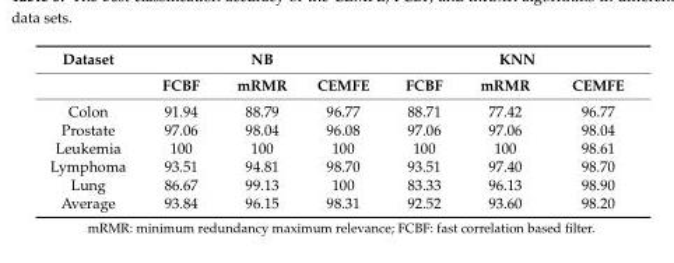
<table><thead><tr><td rowspan="2">Dataset</td><td colspan="3">NB</td><td colspan="3">KNN</td></tr><tr><td>FCBF</td><td>mRMR</td><td>CEMFE</td><td>FCBF</td><td>mRMR</td><td>CEMFE</td></tr></thead><tbody><tr><td>Colon</td><td>91.94</td><td>88.79</td><td>96.77</td><td>88.71</td><td>77.42</td><td>96.77</td></tr><tr><td>Prostate</td><td>97.06</td><td>98.04</td><td>96.08</td><td>97.06</td><td>97.06</td><td>98.04</td></tr><tr><td>Leukemia</td><td>100</td><td>100</td><td>100</td><td>100</td><td>100</td><td>98.61</td></tr><tr><td>Lymphoma</td><td>93.51</td><td>94.81</td><td>98.70</td><td>93.51</td><td>97.40</td><td>98.70</td></tr><tr><td>Lung</td><td>86.67</td><td>99.13</td><td>100</td><td>83.33</td><td>96.13</td><td>98.90</td></tr><tr><td>Average</td><td>93.84</td><td>96.15</td><td>98.31</td><td>92.52</td><td>93.60</td><td>98.20</td></tr></tbody></table>